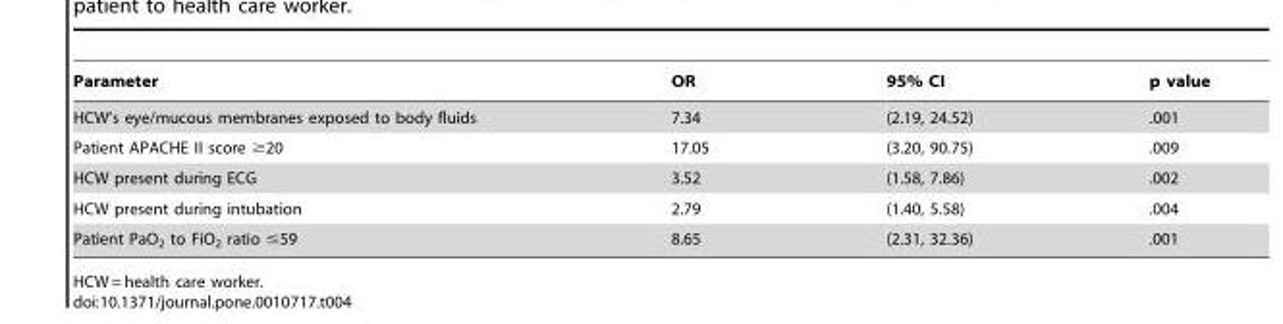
<table><thead><tr><td>Parameter</td><td>OR</td><td>95% CI</td><td>p value</td></tr></thead><tbody><tr><td>HCW’s eye/mucous membranes exposed to body fluids</td><td>7.34</td><td>(2.19, 24.52)</td><td>.001</td></tr><tr><td>Patient APACHE II score ≥20</td><td>17.05</td><td>(3.20, 90.75)</td><td>.009</td></tr><tr><td>HCW present during ECG</td><td>3.52</td><td>(1.58, 7.86)</td><td>.002</td></tr><tr><td>HCW present during intubation</td><td>2.79</td><td>(1.40, 5.58)</td><td>.004</td></tr><tr><td>Patient PaO<sub>2</sub> to FiO<sub>2</sub> ratio ≤59</td><td>8.65</td><td>(2.31, 32.36)</td><td>.001</td></tr></tbody></table>